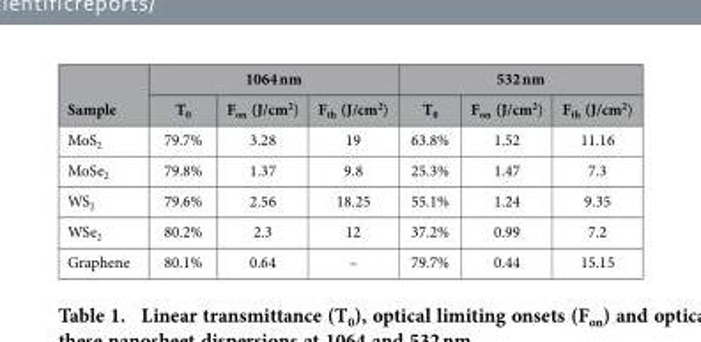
<table><thead><tr><td rowspan="2">Sample</td><td colspan="3">1064 nm</td><td colspan="3">532 nm</td></tr><tr><td>T<sub>0</sub></td><td>F<sub>on</sub> (J/cm<sup>2</sup>)</td><td>F<sub>th</sub> (J/cm<sup>2</sup>)</td><td>T<sub>0</sub></td><td>F<sub>on</sub> (J/cm<sup>2</sup>)</td><td>F<sub>th</sub> (J/cm<sup>2</sup>)</td></tr></thead><tbody><tr><td>MoS<sub>2</sub></td><td>79.7%</td><td>3.28</td><td>19</td><td>63.8%</td><td>1.52</td><td>11.16</td></tr><tr><td>MoSe<sub>2</sub></td><td>79.8%</td><td>1.37</td><td>9.8</td><td>25.3%</td><td>1.47</td><td>7.3</td></tr><tr><td>WS<sub>2</sub></td><td>79.6%</td><td>2.56</td><td>18.25</td><td>55.1%</td><td>1.24</td><td>9.35</td></tr><tr><td>WSe<sub>2</sub></td><td>80.2%</td><td>2.3</td><td>12</td><td>37.2%</td><td>0.99</td><td>7.2</td></tr><tr><td>Graphene</td><td>80.1%</td><td>0.64</td><td>–</td><td>79.7%</td><td>0.44</td><td>15.15</td></tr></tbody></table>